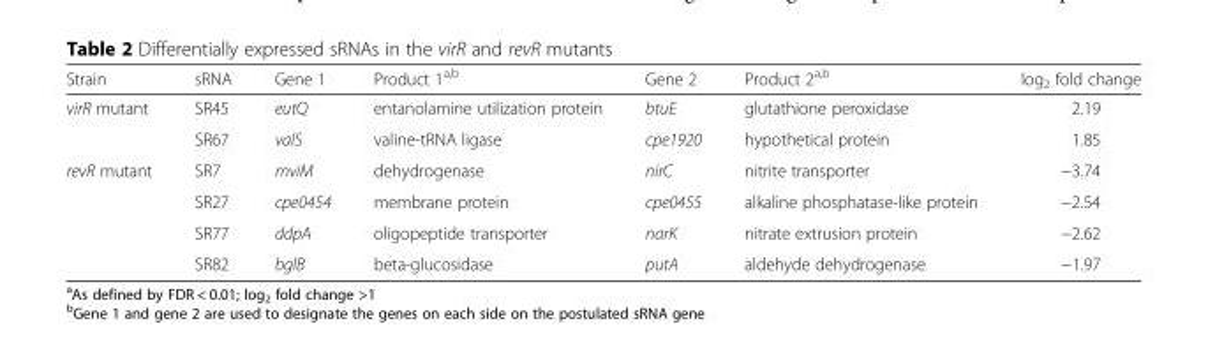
<table><thead><tr><td>Strain</td><td>sRNA</td><td>Gene 1</td><td>Product 1<sup>a,b</sup></td><td>Gene 2</td><td>Product 2<sup>a,b</sup></td><td>log<sub>2</sub> fold change</td></tr></thead><tbody><tr><td rowspan="2">virR mutant</td><td>SR45</td><td>eutQ</td><td>entanolamine utilization protein</td><td>btuE</td><td>glutathione peroxidase</td><td>2.19</td></tr><tr><td>SR67</td><td>valS</td><td>valine-tRNA ligase</td><td>cpe1920</td><td>hypothetical protein</td><td>1.85</td></tr><tr><td rowspan="4">revR mutant</td><td>SR7</td><td>mviM</td><td>dehydrogenase</td><td>nirC</td><td>nitrite transporter</td><td>−3.74</td></tr><tr><td>SR27</td><td>cpe0454</td><td>membrane protein</td><td>cpe0455</td><td>alkaline phosphatase-like protein</td><td>−2.54</td></tr><tr><td>SR77</td><td>ddpA</td><td>oligopeptide transporter</td><td>narK</td><td>nitrate extrusion protein</td><td>−2.62</td></tr><tr><td>SR82</td><td>bglB</td><td>beta-glucosidase</td><td>putA</td><td>aldehyde dehydrogenase</td><td>−1.97</td></tr></tbody></table>